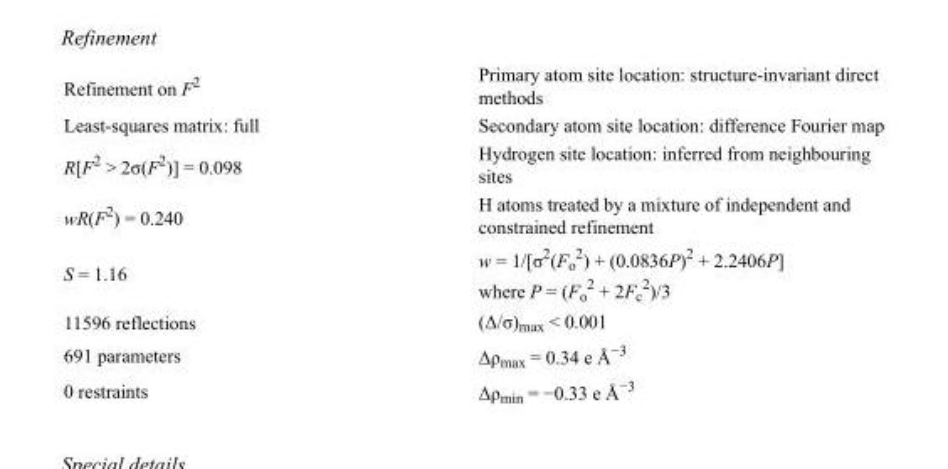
<table><tbody><tr><td>Refinement on F<sup>2</sup></td><td>Primary atom site location: structure-invariant direct methods</td></tr><tr><td>Least-squares matrix: full</td><td>Secondary atom site location: difference Fourier map</td></tr><tr><td>R[F<sup>2</sup> &gt; 2σ(F<sup>2</sup>)] = 0.098</td><td>Hydrogen site location: inferred from neighbouring sites</td></tr><tr><td>wR(F<sup>2</sup>) = 0.240</td><td>H atoms treated by a mixture of independent and constrained refinement</td></tr><tr><td>S = 1.16</td><td>w = 1/[σ<sup>2</sup>(F<sub>o</sub> <sup>2</sup>) + (0.0836P)<sup>2</sup> + 2.2406P] where P = (F<sub>o</sub> <sup>2</sup> + 2F<sub>c</sub> <sup>2</sup>)/3</td></tr><tr><td>11596 reflections</td><td>(Δ/σ)<sub>max</sub> &lt; 0.001</td></tr><tr><td>691 parameters</td><td>Δρ<sub>max</sub> = 0.34 e Å<sup>−3</sup></td></tr><tr><td>0 restraints</td><td>Δρ<sub>min</sub> = −0.33 e Å<sup>−3</sup></td></tr></tbody></table>